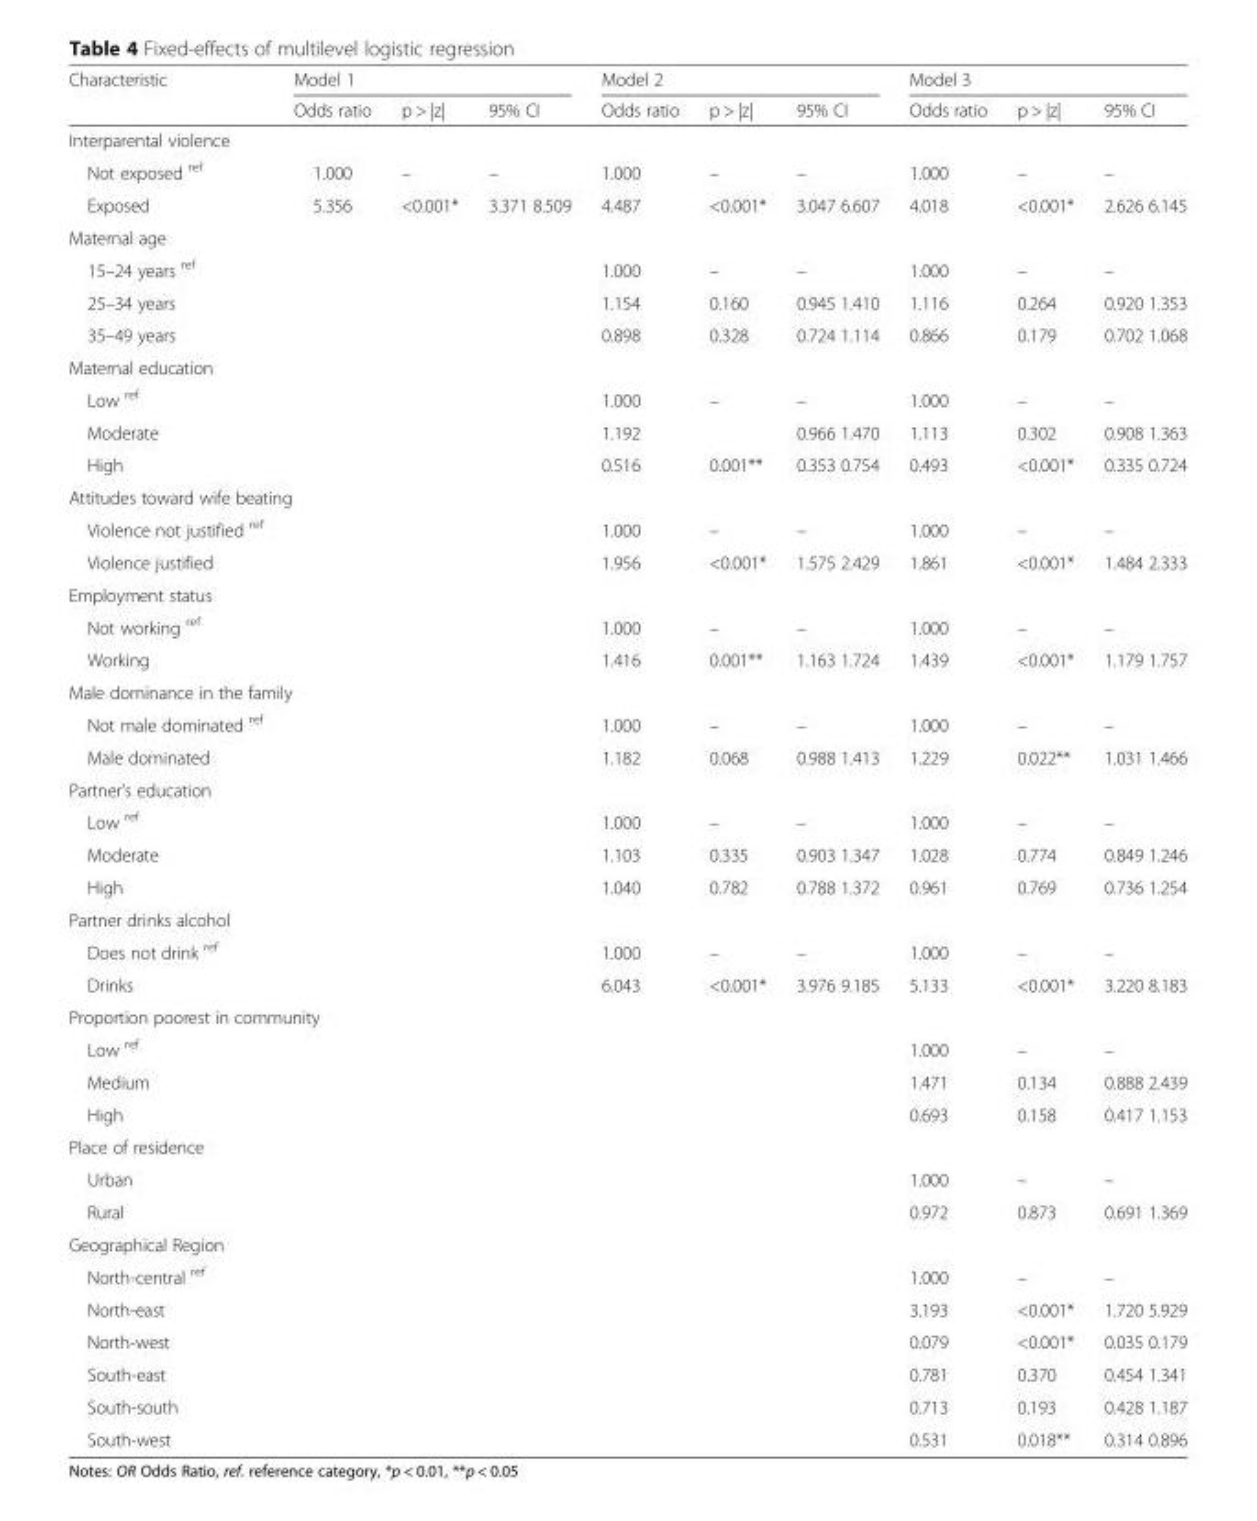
<table><thead><tr><td rowspan="2">Characteristic</td><td colspan="3">Model 1</td><td colspan="3">Model 2</td><td colspan="3">Model 3</td></tr><tr><td>Odds ratio</td><td>p &gt; |z|</td><td>95% CI</td><td>Odds ratio</td><td>p &gt; |z|</td><td>95% CI</td><td>Odds ratio</td><td>p &gt; |z|</td><td>95% CI</td></tr></thead><tbody><tr><td colspan="10">Interparental violence</td></tr><tr><td>Not exposed <sup>ref</sup></td><td>1.000</td><td>–</td><td>–</td><td>1.000</td><td>–</td><td>–</td><td>1.000</td><td>–</td><td>–</td></tr><tr><td>Exposed</td><td>5.356</td><td>&lt;0.001*</td><td>3.371 8.509</td><td>4.487</td><td>&lt;0.001*</td><td>3.047 6.607</td><td>4.018</td><td>&lt;0.001*</td><td>2.626 6.145</td></tr><tr><td colspan="10">Maternal age</td></tr><tr><td>15–24 years <sup>ref</sup></td><td></td><td></td><td></td><td>1.000</td><td>–</td><td>–</td><td>1.000</td><td>–</td><td>–</td></tr><tr><td>25–34 years</td><td></td><td></td><td></td><td>1.154</td><td>0.160</td><td>0.945 1.410</td><td>1.116</td><td>0.264</td><td>0.920 1.353</td></tr><tr><td>35–49 years</td><td></td><td></td><td></td><td>0.898</td><td>0.328</td><td>0.724 1.114</td><td>0.866</td><td>0.179</td><td>0.702 1.068</td></tr><tr><td colspan="10">Maternal education</td></tr><tr><td>Low <sup>ref</sup></td><td></td><td></td><td></td><td>1.000</td><td>–</td><td>–</td><td>1.000</td><td>–</td><td>–</td></tr><tr><td>Moderate</td><td></td><td></td><td></td><td>1.192</td><td></td><td>0.966 1.470</td><td>1.113</td><td>0.302</td><td>0.908 1.363</td></tr><tr><td>High</td><td></td><td></td><td></td><td>0.516</td><td>0.001**</td><td>0.353 0.754</td><td>0.493</td><td>&lt;0.001*</td><td>0.335 0.724</td></tr><tr><td colspan="10">Attitudes toward wife beating</td></tr><tr><td>Violence not justified <sup>ref</sup></td><td></td><td></td><td></td><td>1.000</td><td>–</td><td>–</td><td>1.000</td><td>–</td><td>–</td></tr><tr><td>Violence justified</td><td></td><td></td><td></td><td>1.956</td><td>&lt;0.001*</td><td>1.575 2.429</td><td>1.861</td><td>&lt;0.001*</td><td>1.484 2.333</td></tr><tr><td colspan="10">Employment status</td></tr><tr><td>Not working <sup>ref</sup></td><td></td><td></td><td></td><td>1.000</td><td>–</td><td>–</td><td>1.000</td><td>–</td><td>–</td></tr><tr><td>Working</td><td></td><td></td><td></td><td>1.416</td><td>0.001**</td><td>1.163 1.724</td><td>1.439</td><td>&lt;0.001*</td><td>1.179 1.757</td></tr><tr><td colspan="10">Male dominance in the family</td></tr><tr><td>Not male dominated <sup>ref</sup></td><td></td><td></td><td></td><td>1.000</td><td>–</td><td>–</td><td>1.000</td><td>–</td><td>–</td></tr><tr><td>Male dominated</td><td></td><td></td><td></td><td>1.182</td><td>0.068</td><td>0.988 1.413</td><td>1.229</td><td>0.022**</td><td>1.031 1.466</td></tr><tr><td colspan="10">Partner’s education</td></tr><tr><td>Low <sup>ref</sup></td><td></td><td></td><td></td><td>1.000</td><td>–</td><td>–</td><td>1.000</td><td>–</td><td>–</td></tr><tr><td>Moderate</td><td></td><td></td><td></td><td>1.103</td><td>0.335</td><td>0.903 1.347</td><td>1.028</td><td>0.774</td><td>0.849 1.246</td></tr><tr><td>High</td><td></td><td></td><td></td><td>1.040</td><td>0.782</td><td>0.788 1.372</td><td>0.961</td><td>0.769</td><td>0.736 1.254</td></tr><tr><td colspan="10">Partner drinks alcohol</td></tr><tr><td>Does not drink <sup>ref</sup></td><td></td><td></td><td></td><td>1.000</td><td>–</td><td>–</td><td>1.000</td><td>–</td><td>–</td></tr><tr><td>Drinks</td><td></td><td></td><td></td><td>6.043</td><td>&lt;0.001*</td><td>3.976 9.185</td><td>5.133</td><td>&lt;0.001*</td><td>3.220 8.183</td></tr><tr><td colspan="10">Proportion poorest in community</td></tr><tr><td>Low <sup>ref</sup></td><td></td><td></td><td></td><td></td><td></td><td></td><td>1.000</td><td>–</td><td>–</td></tr><tr><td>Medium</td><td></td><td></td><td></td><td></td><td></td><td></td><td>1.471</td><td>0.134</td><td>0.888 2.439</td></tr><tr><td>High</td><td></td><td></td><td></td><td></td><td></td><td></td><td>0.693</td><td>0.158</td><td>0.417 1.153</td></tr><tr><td colspan="10">Place of residence</td></tr><tr><td>Urban</td><td></td><td></td><td></td><td></td><td></td><td></td><td>1.000</td><td>–</td><td>–</td></tr><tr><td>Rural</td><td></td><td></td><td></td><td></td><td></td><td></td><td>0.972</td><td>0.873</td><td>0.691 1.369</td></tr><tr><td colspan="10">Geographical Region</td></tr><tr><td>North-central <sup>ref</sup></td><td></td><td></td><td></td><td></td><td></td><td></td><td>1.000</td><td>–</td><td>–</td></tr><tr><td>North-east</td><td></td><td></td><td></td><td></td><td></td><td></td><td>3.193</td><td>&lt;0.001*</td><td>1.720 5.929</td></tr><tr><td>North-west</td><td></td><td></td><td></td><td></td><td></td><td></td><td>0.079</td><td>&lt;0.001*</td><td>0.035 0.179</td></tr><tr><td>South-east</td><td></td><td></td><td></td><td></td><td></td><td></td><td>0.781</td><td>0.370</td><td>0.454 1.341</td></tr><tr><td>South-south</td><td></td><td></td><td></td><td></td><td></td><td></td><td>0.713</td><td>0.193</td><td>0.428 1.187</td></tr><tr><td>South-west</td><td></td><td></td><td></td><td></td><td></td><td></td><td>0.531</td><td>0.018**</td><td>0.314 0.896</td></tr></tbody></table>